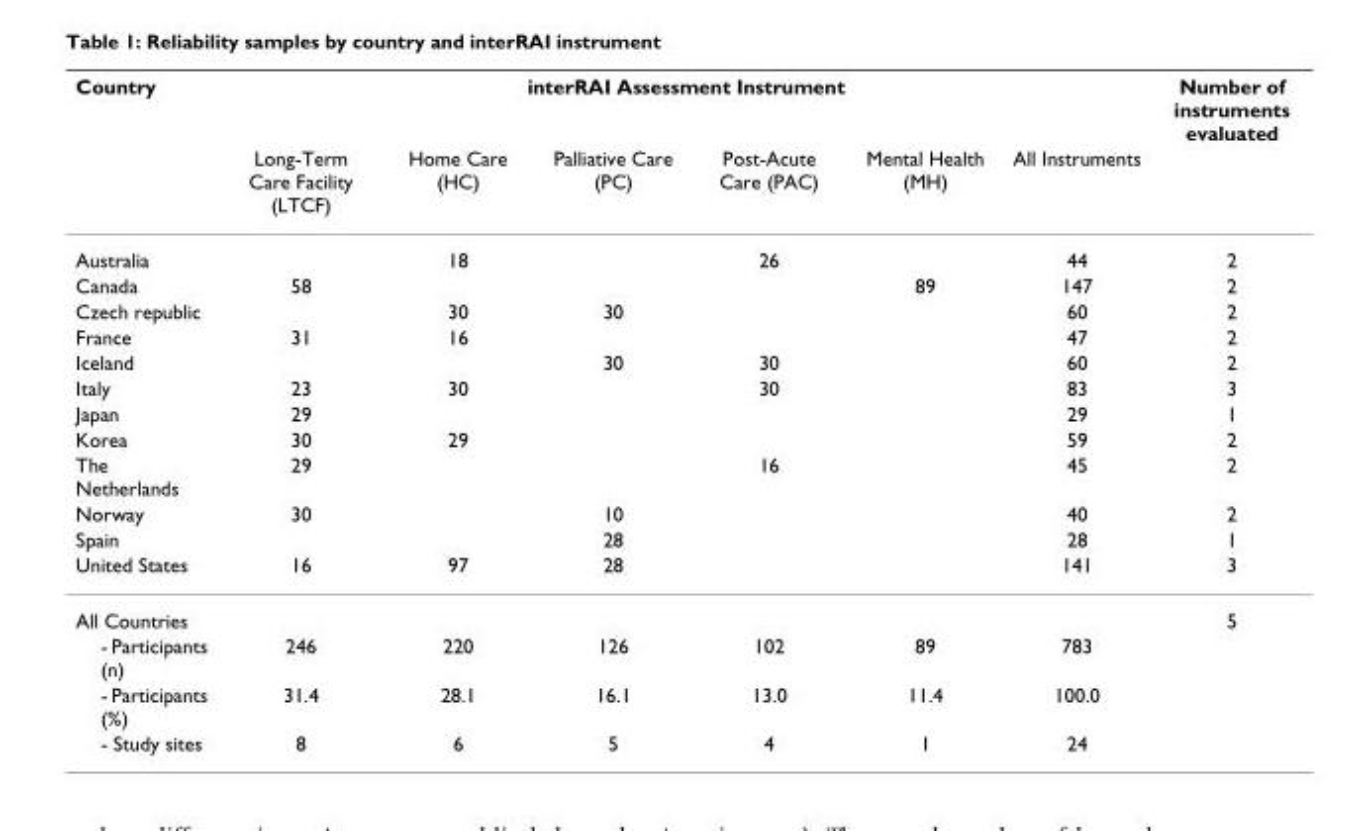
<table><thead><tr><td rowspan="2">Country</td><td colspan="6">interRAI Assessment Instrument</td><td rowspan="2">Number of instruments evaluated</td></tr><tr><td>Long-Term Care Facility (LTCF)</td><td>Home Care (HC)</td><td>Palliative Care (PC)</td><td>Post-Acute Care (PAC)</td><td>Mental Health (MH)</td><td>All Instruments</td></tr></thead><tbody><tr><td>Australia</td><td></td><td>18</td><td></td><td>26</td><td></td><td>44</td><td>2</td></tr><tr><td>Canada</td><td>58</td><td></td><td></td><td></td><td>89</td><td>147</td><td>2</td></tr><tr><td>Czech republic</td><td></td><td>30</td><td>30</td><td></td><td></td><td>60</td><td>2</td></tr><tr><td>France</td><td>31</td><td>16</td><td></td><td></td><td></td><td>47</td><td>2</td></tr><tr><td>Iceland</td><td></td><td></td><td>30</td><td>30</td><td></td><td>60</td><td>2</td></tr><tr><td>Italy</td><td>23</td><td>30</td><td></td><td>30</td><td></td><td>83</td><td>3</td></tr><tr><td>Japan</td><td>29</td><td></td><td></td><td></td><td></td><td>29</td><td>1</td></tr><tr><td>Korea</td><td>30</td><td>29</td><td></td><td></td><td></td><td>59</td><td>2</td></tr><tr><td>The Netherlands</td><td>29</td><td></td><td></td><td>16</td><td></td><td>45</td><td>2</td></tr><tr><td>Norway</td><td>30</td><td></td><td>10</td><td></td><td></td><td>40</td><td>2</td></tr><tr><td>Spain</td><td></td><td></td><td>28</td><td></td><td></td><td>28</td><td>1</td></tr><tr><td>United States</td><td>16</td><td>97</td><td>28</td><td></td><td></td><td>141</td><td>3</td></tr><tr><td>All Countries</td><td></td><td></td><td></td><td></td><td></td><td></td><td>5</td></tr><tr><td>- Participants (n)</td><td>246</td><td>220</td><td>126</td><td>102</td><td>89</td><td>783</td><td></td></tr><tr><td>- Participants (%)</td><td>31.4</td><td>28.1</td><td>16.1</td><td>13.0</td><td>11.4</td><td>100.0</td><td></td></tr><tr><td>- Study sites</td><td>8</td><td>6</td><td>5</td><td>4</td><td>1</td><td>24</td><td></td></tr></tbody></table>